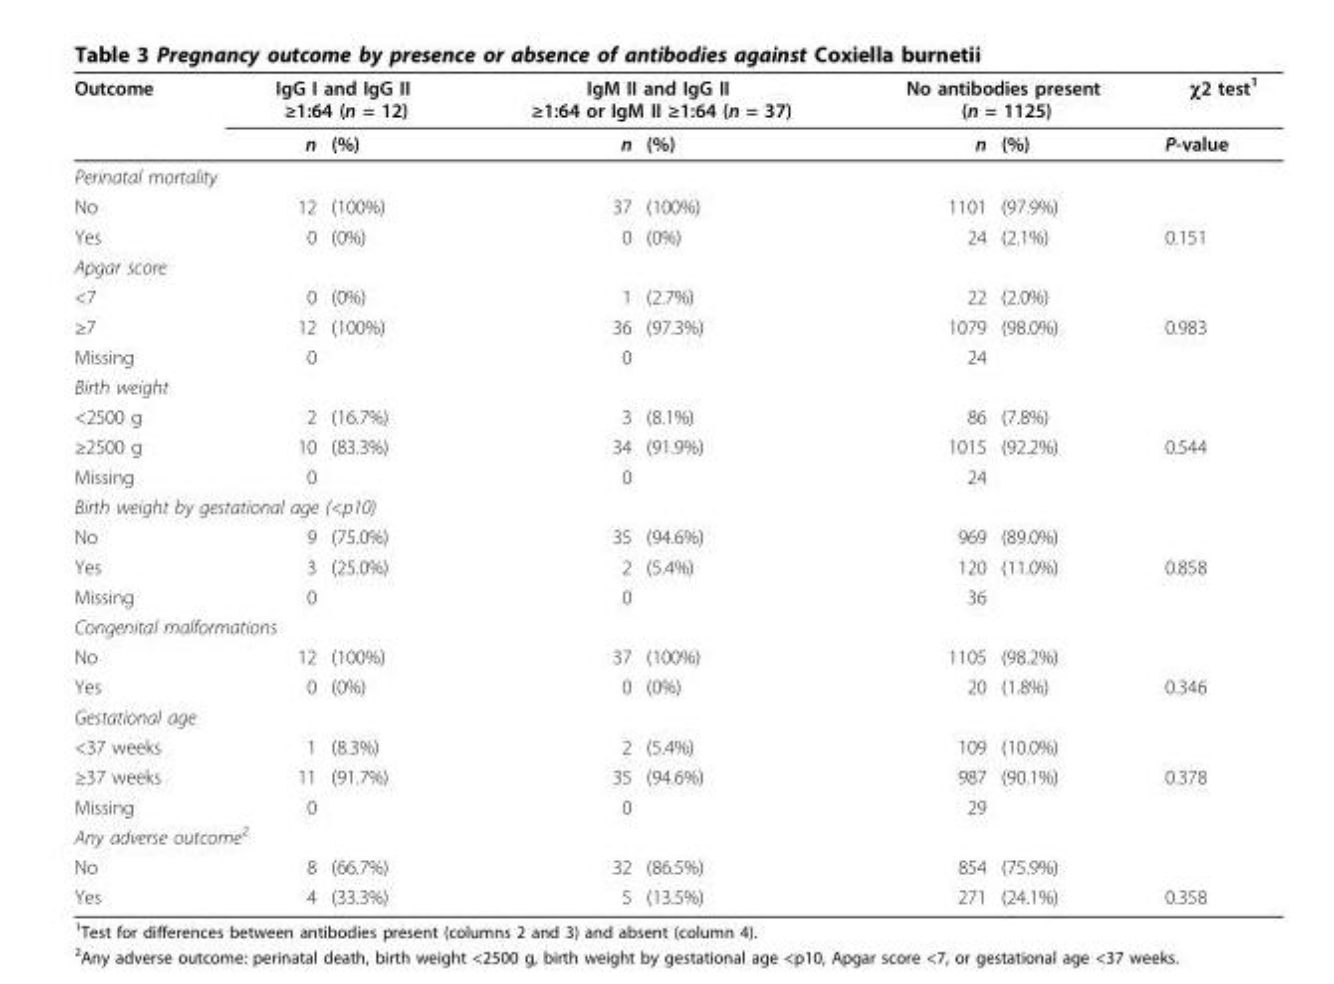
<table><thead><tr><td rowspan="2">Outcome</td><td colspan="2">IgG I and IgG II ≥1:64 (n = 12)</td><td colspan="2">IgM II and IgG II ≥1:64 or IgM II ≥1:64 (n = 37)</td><td colspan="2">No antibodies present (n = 1125)</td><td rowspan="2">χ2 test<sup>1</sup> P-value</td></tr><tr><td>n</td><td>(%)</td><td>n</td><td>(%)</td><td>n</td><td>(%)</td></tr></thead><tbody><tr><td colspan="8">Perinatal mortality</td></tr><tr><td>No</td><td>12</td><td>(100%)</td><td>37</td><td>(100%)</td><td>1101</td><td>(97.9%)</td><td></td></tr><tr><td>Yes</td><td>0</td><td>(0%)</td><td>0</td><td>(0%)</td><td>24</td><td>(2.1%)</td><td>0.151</td></tr><tr><td colspan="8">Apgar score</td></tr><tr><td>&lt;7</td><td>0</td><td>(0%)</td><td>1</td><td>(2.7%)</td><td>22</td><td>(2.0%)</td><td></td></tr><tr><td>≥7</td><td>12</td><td>(100%)</td><td>36</td><td>(97.3%)</td><td>1079</td><td>(98.0%)</td><td>0.983</td></tr><tr><td>Missing</td><td>0</td><td></td><td>0</td><td></td><td>24</td><td></td><td></td></tr><tr><td colspan="8">Birth weight</td></tr><tr><td>&lt;2500 g</td><td>2</td><td>(16.7%)</td><td>3</td><td>(8.1%)</td><td>86</td><td>(7.8%)</td><td></td></tr><tr><td>≥2500 g</td><td>10</td><td>(83.3%)</td><td>34</td><td>(91.9%)</td><td>1015</td><td>(92.2%)</td><td>0.544</td></tr><tr><td>Missing</td><td>0</td><td></td><td>0</td><td></td><td>24</td><td></td><td></td></tr><tr><td colspan="8">Birth weight by gestational age (&lt;p10)</td></tr><tr><td>No</td><td>9</td><td>(75.0%)</td><td>35</td><td>(94.6%)</td><td>969</td><td>(89.0%)</td><td></td></tr><tr><td>Yes</td><td>3</td><td>(25.0%)</td><td>2</td><td>(5.4%)</td><td>120</td><td>(11.0%)</td><td>0.858</td></tr><tr><td>Missing</td><td>0</td><td></td><td>0</td><td></td><td>36</td><td></td><td></td></tr><tr><td colspan="8">Congenital malformations</td></tr><tr><td>No</td><td>12</td><td>(100%)</td><td>37</td><td>(100%)</td><td>1105</td><td>(98.2%)</td><td></td></tr><tr><td>Yes</td><td>0</td><td>(0%)</td><td>0</td><td>(0%)</td><td>20</td><td>(1.8%)</td><td>0.346</td></tr><tr><td colspan="8">Gestational age</td></tr><tr><td>&lt;37 weeks</td><td>1</td><td>(8.3%)</td><td>2</td><td>(5.4%)</td><td>109</td><td>(10.0%)</td><td></td></tr><tr><td>≥37 weeks</td><td>11</td><td>(91.7%)</td><td>35</td><td>(94.6%)</td><td>987</td><td>(90.1%)</td><td>0.378</td></tr><tr><td>Missing</td><td>0</td><td></td><td>0</td><td></td><td>29</td><td></td><td></td></tr><tr><td colspan="8">Any adverse outcome<sup>2</sup></td></tr><tr><td>No</td><td>8</td><td>(66.7%)</td><td>32</td><td>(86.5%)</td><td>854</td><td>(75.9%)</td><td></td></tr><tr><td>Yes</td><td>4</td><td>(33.3%)</td><td>5</td><td>(13.5%)</td><td>271</td><td>(24.1%)</td><td>0.358</td></tr></tbody></table>